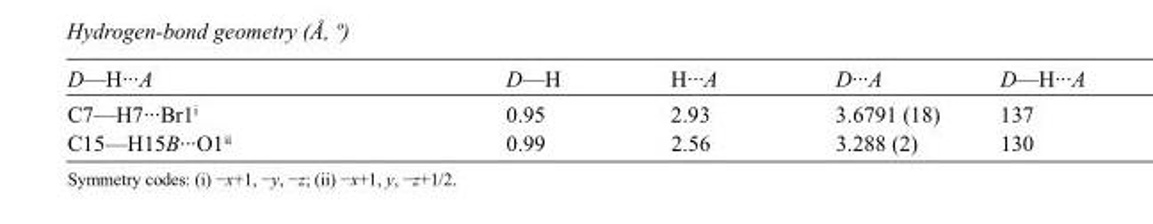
<table><tbody><tr><td>D—H···A</td><td>D—H</td><td>H···A</td><td>D···A</td><td>D—H···A</td></tr><tr><td>C7—H7···Br1<sup>i</sup></td><td>0.95</td><td>2.93</td><td>3.6791 (18)</td><td>137</td></tr><tr><td>C15—H15B···O1<sup>ii</sup></td><td>0.99</td><td>2.56</td><td>3.288 (2)</td><td>130</td></tr></tbody></table>